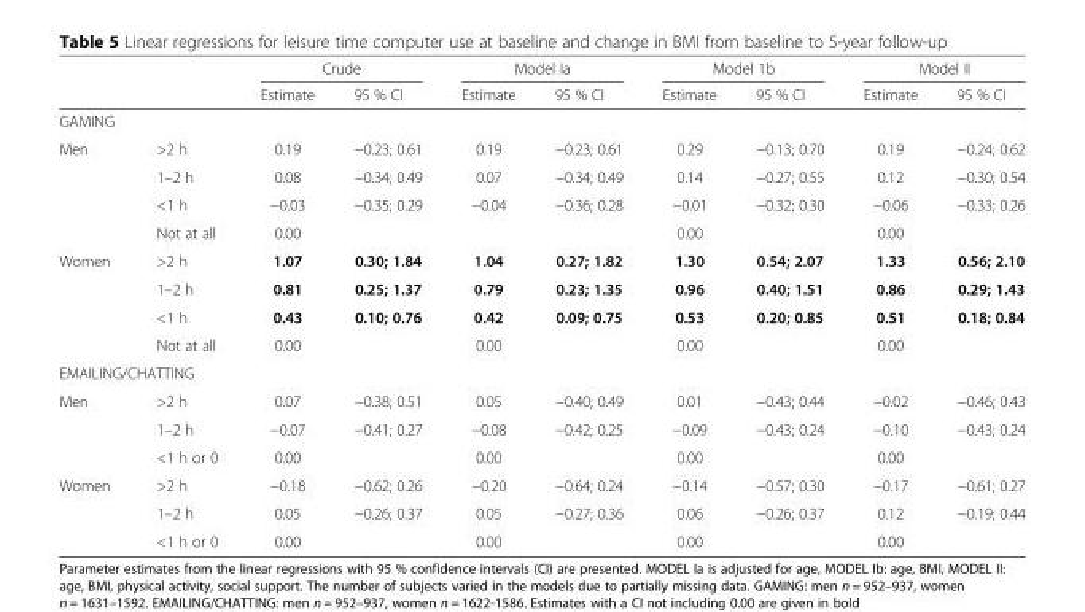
<table><thead><tr><td rowspan="2"></td><td rowspan="2"></td><td colspan="2">Crude</td><td colspan="2">Model Ia</td><td colspan="2">Model 1b</td><td colspan="2">Model II</td></tr><tr><td>Estimate</td><td>95 % CI</td><td>Estimate</td><td>95 % CI</td><td>Estimate</td><td>95 % CI</td><td>Estimate</td><td>95 % CI</td></tr></thead><tbody><tr><td colspan="10">GAMING</td></tr><tr><td rowspan="4">Men</td><td>&gt;2 h</td><td>0.19</td><td>−0.23; 0.61</td><td>0.19</td><td>−0.23; 0.61</td><td>0.29</td><td>−0.13; 0.70</td><td>0.19</td><td>−0.24; 0.62</td></tr><tr><td>1–2 h</td><td>0.08</td><td>−0.34; 0.49</td><td>0.07</td><td>−0.34; 0.49</td><td>0.14</td><td>−0.27; 0.55</td><td>0.12</td><td>−0.30; 0.54</td></tr><tr><td>&lt;1 h</td><td>−0.03</td><td>−0.35; 0.29</td><td>−0.04</td><td>−0.36; 0.28</td><td>−0.01</td><td>−0.32; 0.30</td><td>−0.06</td><td>−0.33; 0.26</td></tr><tr><td>Not at all</td><td>0.00</td><td></td><td></td><td></td><td>0.00</td><td></td><td>0.00</td><td></td></tr><tr><td rowspan="4">Women</td><td>&gt;2 h</td><td>1.07</td><td>0.30; 1.84</td><td>1.04</td><td>0.27; 1.82</td><td>1.30</td><td>0.54; 2.07</td><td>1.33</td><td>0.56; 2.10</td></tr><tr><td>1–2 h</td><td>0.81</td><td>0.25; 1.37</td><td>0.79</td><td>0.23; 1.35</td><td>0.96</td><td>0.40; 1.51</td><td>0.86</td><td>0.29; 1.43</td></tr><tr><td>&lt;1 h</td><td>0.43</td><td>0.10; 0.76</td><td>0.42</td><td>0.09; 0.75</td><td>0.53</td><td>0.20; 0.85</td><td>0.51</td><td>0.18; 0.84</td></tr><tr><td>Not at all</td><td>0.00</td><td></td><td>0.00</td><td></td><td>0.00</td><td></td><td>0.00</td><td></td></tr><tr><td colspan="10">EMAILING/CHATTING</td></tr><tr><td rowspan="3">Men</td><td>&gt;2 h</td><td>0.07</td><td>−0.38; 0.51</td><td>0.05</td><td>−0.40; 0.49</td><td>0.01</td><td>−0.43; 0.44</td><td>−0.02</td><td>−0.46; 0.43</td></tr><tr><td>1–2 h</td><td>−0.07</td><td>−0.41; 0.27</td><td>−0.08</td><td>−0.42; 0.25</td><td>−0.09</td><td>−0.43; 0.24</td><td>−0.10</td><td>−0.43; 0.24</td></tr><tr><td>&lt;1 h or 0</td><td>0.00</td><td></td><td>0.00</td><td></td><td>0.00</td><td></td><td>0.00</td><td></td></tr><tr><td rowspan="3">Women</td><td>&gt;2 h</td><td>−0.18</td><td>−0.62; 0.26</td><td>−0.20</td><td>−0.64; 0.24</td><td>−0.14</td><td>−0.57; 0.30</td><td>−0.17</td><td>−0.61; 0.27</td></tr><tr><td>1–2 h</td><td>0.05</td><td>−0.26; 0.37</td><td>0.05</td><td>−0.27; 0.36</td><td>0.06</td><td>−0.26; 0.37</td><td>0.12</td><td>−0.19; 0.44</td></tr><tr><td>&lt;1 h or 0</td><td>0.00</td><td></td><td>0.00</td><td></td><td>0.00</td><td></td><td>0.00</td><td></td></tr></tbody></table>